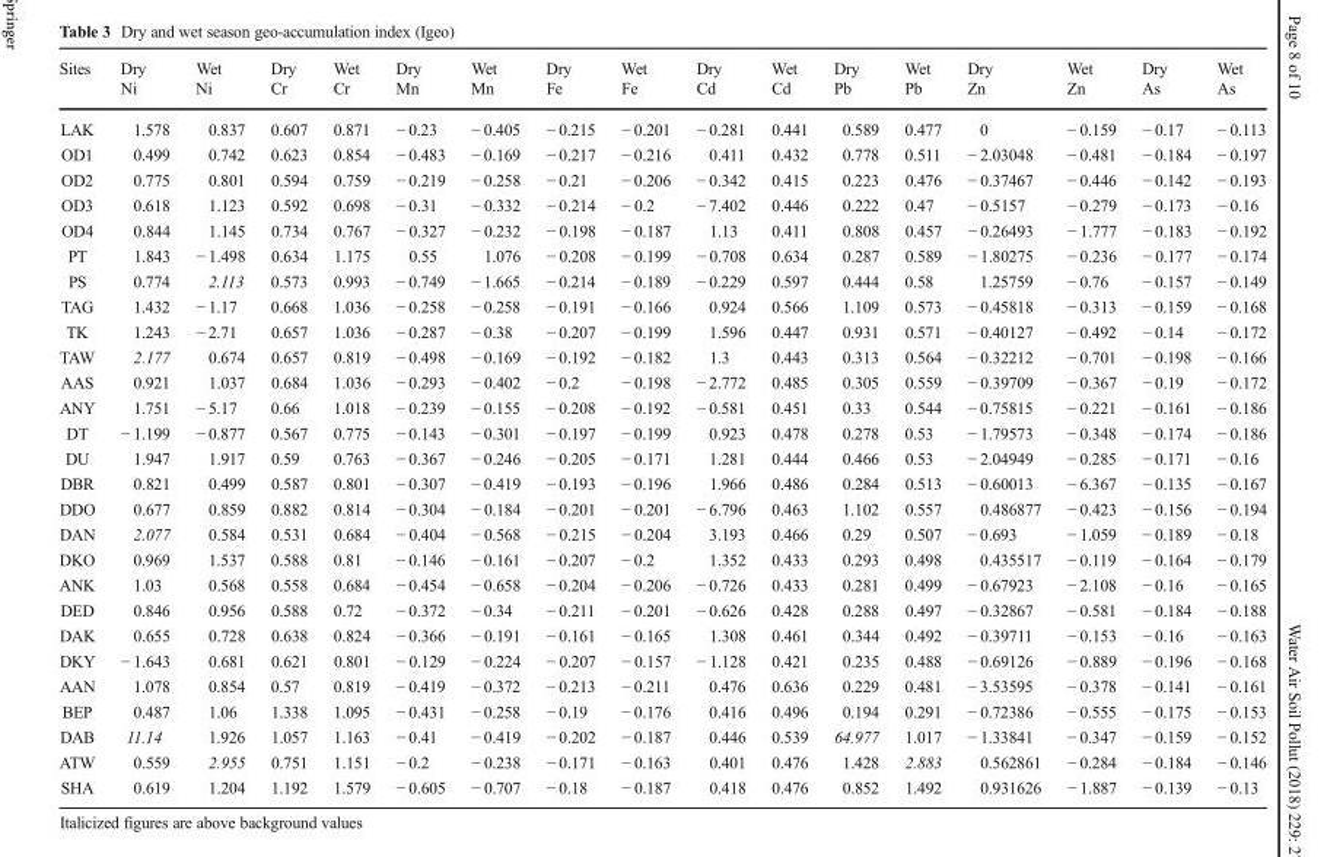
<table><thead><tr><td rowspan="2">Sites</td><td rowspan="2">Dry Ni</td><td rowspan="2">Wet Ni</td><td rowspan="2">Dry Cr</td><td rowspan="2">Wet Cr</td><td rowspan="2">Dry Mn</td><td rowspan="2">Wet Mn</td><td rowspan="2">Dry Fe</td><td rowspan="2">Wet Fe</td><td rowspan="2">Dry Cd</td><td rowspan="2">Wet Cd</td><td rowspan="2">Dry Pb</td><td rowspan="2">Wet Pb</td><td rowspan="2">Dry Zn</td><td rowspan="2">Wet Zn</td><td rowspan="2">Dry As</td><td rowspan="2">Wet As</td></tr><tr></tr></thead><tbody><tr><td>LAK</td><td>1.578</td><td>0.837</td><td>0.607</td><td>0.871</td><td>− 0.23</td><td>− 0.405</td><td>− 0.215</td><td>− 0.201</td><td>− 0.281</td><td>0.441</td><td>0.589</td><td>0.477</td><td>0</td><td>− 0.159</td><td>− 0.17</td><td>− 0.113</td></tr><tr><td>OD1</td><td>0.499</td><td>0.742</td><td>0.623</td><td>0.854</td><td>− 0.483</td><td>− 0.169</td><td>− 0.217</td><td>− 0.216</td><td>0.411</td><td>0.432</td><td>0.778</td><td>0.511</td><td>− 2.03048</td><td>− 0.481</td><td>− 0.184</td><td>− 0.197</td></tr><tr><td>OD2</td><td>0.775</td><td>0.801</td><td>0.594</td><td>0.759</td><td>− 0.219</td><td>− 0.258</td><td>− 0.21</td><td>− 0.206</td><td>− 0.342</td><td>0.415</td><td>0.223</td><td>0.476</td><td>− 0.37467</td><td>− 0.446</td><td>− 0.142</td><td>− 0.193</td></tr><tr><td>OD3</td><td>0.618</td><td>1.123</td><td>0.592</td><td>0.698</td><td>− 0.31</td><td>− 0.332</td><td>− 0.214</td><td>− 0.2</td><td>− 7.402</td><td>0.446</td><td>0.222</td><td>0.47</td><td>− 0.5157</td><td>− 0.279</td><td>− 0.173</td><td>− 0.16</td></tr><tr><td>OD4</td><td>0.844</td><td>1.145</td><td>0.734</td><td>0.767</td><td>− 0.327</td><td>− 0.232</td><td>− 0.198</td><td>− 0.187</td><td>1.13</td><td>0.411</td><td>0.808</td><td>0.457</td><td>− 0.26493</td><td>− 1.777</td><td>− 0.183</td><td>− 0.192</td></tr><tr><td>PT</td><td>1.843</td><td>− 1.498</td><td>0.634</td><td>1.175</td><td>0.55</td><td>1.076</td><td>− 0.208</td><td>− 0.199</td><td>− 0.708</td><td>0.634</td><td>0.287</td><td>0.589</td><td>− 1.80275</td><td>− 0.236</td><td>− 0.177</td><td>− 0.174</td></tr><tr><td>PS</td><td>0.774</td><td>2.113</td><td>0.573</td><td>0.993</td><td>− 0.749</td><td>− 1.665</td><td>− 0.214</td><td>− 0.189</td><td>− 0.229</td><td>0.597</td><td>0.444</td><td>0.58</td><td>1.25759</td><td>− 0.76</td><td>− 0.157</td><td>− 0.149</td></tr><tr><td>TAG</td><td>1.432</td><td>− 1.17</td><td>0.668</td><td>1.036</td><td>− 0.258</td><td>− 0.258</td><td>− 0.191</td><td>− 0.166</td><td>0.924</td><td>0.566</td><td>1.109</td><td>0.573</td><td>− 0.45818</td><td>− 0.313</td><td>− 0.159</td><td>− 0.168</td></tr><tr><td>TK</td><td>1.243</td><td>− 2.71</td><td>0.657</td><td>1.036</td><td>− 0.287</td><td>− 0.38</td><td>− 0.207</td><td>− 0.199</td><td>1.596</td><td>0.447</td><td>0.931</td><td>0.571</td><td>− 0.40127</td><td>− 0.492</td><td>− 0.14</td><td>− 0.172</td></tr><tr><td>TAW</td><td>2.177</td><td>0.674</td><td>0.657</td><td>0.819</td><td>− 0.498</td><td>− 0.169</td><td>− 0.192</td><td>− 0.182</td><td>1.3</td><td>0.443</td><td>0.313</td><td>0.564</td><td>− 0.32212</td><td>− 0.701</td><td>− 0.198</td><td>− 0.166</td></tr><tr><td>AAS</td><td>0.921</td><td>1.037</td><td>0.684</td><td>1.036</td><td>− 0.293</td><td>− 0.402</td><td>− 0.2</td><td>− 0.198</td><td>− 2.772</td><td>0.485</td><td>0.305</td><td>0.559</td><td>− 0.39709</td><td>− 0.367</td><td>− 0.19</td><td>− 0.172</td></tr><tr><td>ANY</td><td>1.751</td><td>− 5.17</td><td>0.66</td><td>1.018</td><td>− 0.239</td><td>− 0.155</td><td>− 0.208</td><td>− 0.192</td><td>− 0.581</td><td>0.451</td><td>0.33</td><td>0.544</td><td>− 0.75815</td><td>− 0.221</td><td>− 0.161</td><td>− 0.186</td></tr><tr><td>DT</td><td>− 1.199</td><td>− 0.877</td><td>0.567</td><td>0.775</td><td>− 0.143</td><td>− 0.301</td><td>− 0.197</td><td>− 0.199</td><td>0.923</td><td>0.478</td><td>0.278</td><td>0.53</td><td>− 1.79573</td><td>− 0.348</td><td>− 0.174</td><td>− 0.186</td></tr><tr><td>DU</td><td>1.947</td><td>1.917</td><td>0.59</td><td>0.763</td><td>− 0.367</td><td>− 0.246</td><td>− 0.205</td><td>− 0.171</td><td>1.281</td><td>0.444</td><td>0.466</td><td>0.53</td><td>− 2.04949</td><td>− 0.285</td><td>− 0.171</td><td>− 0.16</td></tr><tr><td>DBR</td><td>0.821</td><td>0.499</td><td>0.587</td><td>0.801</td><td>− 0.307</td><td>− 0.419</td><td>− 0.193</td><td>− 0.196</td><td>1.966</td><td>0.486</td><td>0.284</td><td>0.513</td><td>− 0.60013</td><td>− 6.367</td><td>− 0.135</td><td>− 0.167</td></tr><tr><td>DDO</td><td>0.677</td><td>0.859</td><td>0.882</td><td>0.814</td><td>− 0.304</td><td>− 0.184</td><td>− 0.201</td><td>− 0.201</td><td>− 6.796</td><td>0.463</td><td>1.102</td><td>0.557</td><td>0.486877</td><td>− 0.423</td><td>− 0.156</td><td>− 0.194</td></tr><tr><td>DAN</td><td>2.077</td><td>0.584</td><td>0.531</td><td>0.684</td><td>− 0.404</td><td>− 0.568</td><td>− 0.215</td><td>− 0.204</td><td>3.193</td><td>0.466</td><td>0.29</td><td>0.507</td><td>− 0.693</td><td>− 1.059</td><td>− 0.189</td><td>− 0.18</td></tr><tr><td>DKO</td><td>0.969</td><td>1.537</td><td>0.588</td><td>0.81</td><td>− 0.146</td><td>− 0.161</td><td>− 0.207</td><td>− 0.2</td><td>1.352</td><td>0.433</td><td>0.293</td><td>0.498</td><td>0.435517</td><td>− 0.119</td><td>− 0.164</td><td>− 0.179</td></tr><tr><td>ANK</td><td>1.03</td><td>0.568</td><td>0.558</td><td>0.684</td><td>− 0.454</td><td>− 0.658</td><td>− 0.204</td><td>− 0.206</td><td>− 0.726</td><td>0.433</td><td>0.281</td><td>0.499</td><td>− 0.67923</td><td>− 2.108</td><td>− 0.16</td><td>− 0.165</td></tr><tr><td>DED</td><td>0.846</td><td>0.956</td><td>0.588</td><td>0.72</td><td>− 0.372</td><td>− 0.34</td><td>− 0.211</td><td>− 0.201</td><td>− 0.626</td><td>0.428</td><td>0.288</td><td>0.497</td><td>− 0.32867</td><td>− 0.581</td><td>− 0.184</td><td>− 0.188</td></tr><tr><td>DAK</td><td>0.655</td><td>0.728</td><td>0.638</td><td>0.824</td><td>− 0.366</td><td>− 0.191</td><td>− 0.161</td><td>− 0.165</td><td>1.308</td><td>0.461</td><td>0.344</td><td>0.492</td><td>− 0.39711</td><td>− 0.153</td><td>− 0.16</td><td>− 0.163</td></tr><tr><td>DKY</td><td>− 1.643</td><td>0.681</td><td>0.621</td><td>0.801</td><td>− 0.129</td><td>− 0.224</td><td>− 0.207</td><td>− 0.157</td><td>− 1.128</td><td>0.421</td><td>0.235</td><td>0.488</td><td>− 0.69126</td><td>− 0.889</td><td>− 0.196</td><td>− 0.168</td></tr><tr><td>AAN</td><td>1.078</td><td>0.854</td><td>0.57</td><td>0.819</td><td>− 0.419</td><td>− 0.372</td><td>− 0.213</td><td>− 0.211</td><td>0.476</td><td>0.636</td><td>0.229</td><td>0.481</td><td>− 3.53595</td><td>− 0.378</td><td>− 0.141</td><td>− 0.161</td></tr><tr><td>BEP</td><td>0.487</td><td>1.06</td><td>1.338</td><td>1.095</td><td>− 0.431</td><td>− 0.258</td><td>− 0.19</td><td>− 0.176</td><td>0.416</td><td>0.496</td><td>0.194</td><td>0.291</td><td>− 0.72386</td><td>− 0.555</td><td>− 0.175</td><td>− 0.153</td></tr><tr><td>DAB</td><td>11.14</td><td>1.926</td><td>1.057</td><td>1.163</td><td>− 0.41</td><td>− 0.419</td><td>− 0.202</td><td>− 0.187</td><td>0.446</td><td>0.539</td><td>64.977</td><td>1.017</td><td>− 1.33841</td><td>− 0.347</td><td>− 0.159</td><td>− 0.152</td></tr><tr><td>ATW</td><td>0.559</td><td>2.955</td><td>0.751</td><td>1.151</td><td>− 0.2</td><td>− 0.238</td><td>− 0.171</td><td>− 0.163</td><td>0.401</td><td>0.476</td><td>1.428</td><td>2.883</td><td>0.562861</td><td>− 0.284</td><td>− 0.184</td><td>− 0.146</td></tr><tr><td>SHA</td><td>0.619</td><td>1.204</td><td>1.192</td><td>1.579</td><td>− 0.605</td><td>− 0.707</td><td>− 0.18</td><td>− 0.187</td><td>0.418</td><td>0.476</td><td>0.852</td><td>1.492</td><td>0.931626</td><td>− 1.887</td><td>− 0.139</td><td>− 0.13</td></tr></tbody></table>